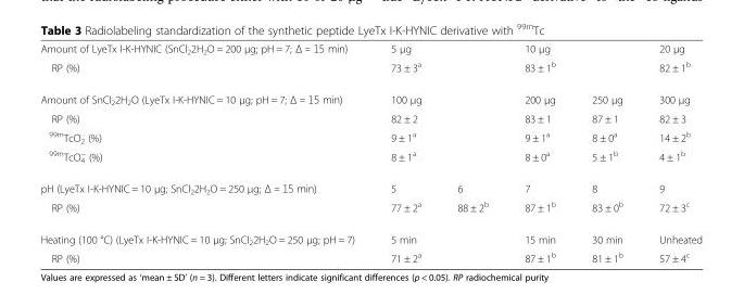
<table><tbody><tr><td>Amount of LyeTx I-K-HYNIC (SnCl<sub>2</sub> <sup>.</sup> 2H<sub>2</sub>O = 200 μg; pH = 7; Δ = 15 min)</td><td colspan="2">5 μg</td><td colspan="2">10 μg</td><td>20 μg</td></tr><tr><td>RP (%)</td><td colspan="2">73 ± 3<sup>a</sup></td><td colspan="2">83 ± 1<sup>b</sup></td><td>82 ± 1<sup>b</sup></td></tr><tr><td>Amount of SnCl<sub>2</sub> <sup>.</sup> 2H<sub>2</sub>O (LyeTx I-K-HYNIC = 10 μg; pH = 7; Δ = 15 min)</td><td colspan="2">100 μg</td><td>200 μg</td><td>250 μg</td><td>300 μg</td></tr><tr><td>RP (%)</td><td colspan="2">82 ± 2</td><td>83 ± 1</td><td>87 ± 1</td><td>82 ± 3</td></tr><tr><td><sup>99m</sup>TcO<sub>2</sub> (%)</td><td colspan="2">9 ± 1<sup>a</sup></td><td>9 ± 1<sup>a</sup></td><td>8 ± 0<sup>a</sup></td><td>14 ± 2<sup>b</sup></td></tr><tr><td><sup>99m</sup>TcO<sub>4</sub> <sup>−</sup> (%)</td><td colspan="2">8 ± 1<sup>a</sup></td><td>8 ± 0<sup>a</sup></td><td>5 ± 1<sup>b</sup></td><td>4 ± 1<sup>b</sup></td></tr><tr><td>pH (LyeTx I-K-HYNIC = 10 μg; SnCl<sub>2</sub> <sup>.</sup> 2H<sub>2</sub>O = 250 μg; Δ = 15 min)</td><td>5</td><td>6</td><td>7</td><td>8</td><td>9</td></tr><tr><td>RP (%)</td><td>77 ± 2<sup>a</sup></td><td>88 ± 2<sup>b</sup></td><td>87 ± 1<sup>b</sup></td><td>83 ± 0<sup>b</sup></td><td>72 ± 3<sup>c</sup></td></tr><tr><td>Heating (100 °C) (LyeTx I-K-HYNIC = 10 μg; SnCl<sub>2</sub> <sup>.</sup> 2H<sub>2</sub>O = 250 μg; pH = 7)</td><td colspan="2">5 min</td><td>15 min</td><td>30 min</td><td>Unheated</td></tr><tr><td>RP (%)</td><td colspan="2">71 ± 2<sup>a</sup></td><td>87 ± 1<sup>b</sup></td><td>81 ± 1<sup>b</sup></td><td>57 ± 4<sup>c</sup></td></tr></tbody></table>